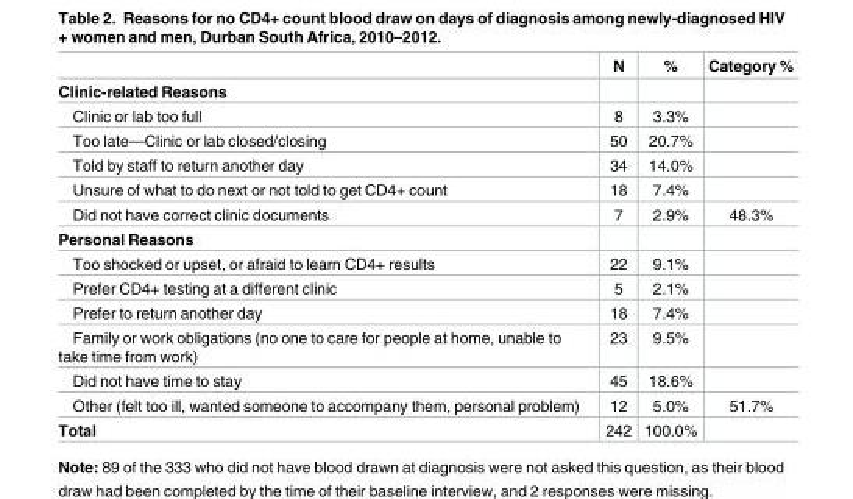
<table><thead><tr><td></td><td>N</td><td>%</td><td>Category %</td></tr></thead><tbody><tr><td colspan="4">Clinic-related Reasons</td></tr><tr><td>Clinic or lab too full</td><td>8</td><td>3.3%</td><td></td></tr><tr><td>Too late—Clinic or lab closed/closing</td><td>50</td><td>20.7%</td><td></td></tr><tr><td>Told by staff to return another day</td><td>34</td><td>14.0%</td><td></td></tr><tr><td>Unsure of what to do next or not told to get CD4+ count</td><td>18</td><td>7.4%</td><td></td></tr><tr><td>Did not have correct clinic documents</td><td>7</td><td>2.9%</td><td>48.3%</td></tr><tr><td colspan="4">Personal Reasons</td></tr><tr><td>Too shocked or upset, or afraid to learn CD4+ results</td><td>22</td><td>9.1%</td><td></td></tr><tr><td>Prefer CD4+ testing at a different clinic</td><td>5</td><td>2.1%</td><td></td></tr><tr><td>Prefer to return another day</td><td>18</td><td>7.4%</td><td></td></tr><tr><td>Family or work obligations (no one to care for people at home, unable to take time from work)</td><td>23</td><td>9.5%</td><td></td></tr><tr><td>Did not have time to stay</td><td>45</td><td>18.6%</td><td></td></tr><tr><td>Other (felt too ill, wanted someone to accompany them, personal problem)</td><td>12</td><td>5.0%</td><td>51.7%</td></tr><tr><td>Total</td><td>242</td><td>100.0%</td><td></td></tr></tbody></table>